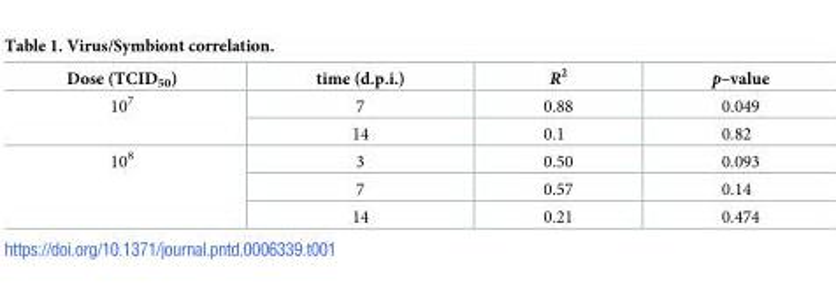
<table><thead><tr><td>Dose (TCID<sub>50</sub>)</td><td>time (d.p.i.)</td><td>R<sup>2</sup></td><td>p–value</td></tr></thead><tbody><tr><td rowspan="2">10<sup>7</sup></td><td>7</td><td>0.88</td><td>0.049</td></tr><tr><td>14</td><td>0.1</td><td>0.82</td></tr><tr><td rowspan="3">10<sup>8</sup></td><td>3</td><td>0.50</td><td>0.093</td></tr><tr><td>7</td><td>0.57</td><td>0.14</td></tr><tr><td>14</td><td>0.21</td><td>0.474</td></tr></tbody></table>